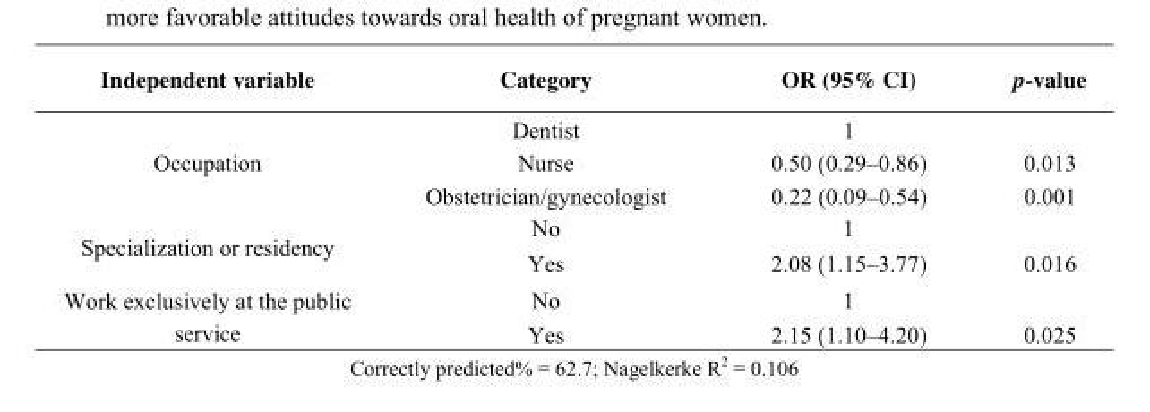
<table><thead><tr><td>Independent variable</td><td>Category</td><td>OR (95% CI)</td><td>p-value</td></tr></thead><tbody><tr><td rowspan="3">Occupation</td><td>Dentist</td><td>1</td><td></td></tr><tr><td>Nurse</td><td>0.50 (0.29–0.86)</td><td>0.013</td></tr><tr><td>Obstetrician/gynecologist</td><td>0.22 (0.09–0.54)</td><td>0.001</td></tr><tr><td rowspan="2">Specialization or residency</td><td>No</td><td>1</td><td></td></tr><tr><td>Yes</td><td>2.08 (1.15–3.77)</td><td>0.016</td></tr><tr><td rowspan="2">Work exclusively at the public service</td><td>No</td><td>1</td><td></td></tr><tr><td>Yes</td><td>2.15 (1.10–4.20)</td><td>0.025</td></tr></tbody></table>